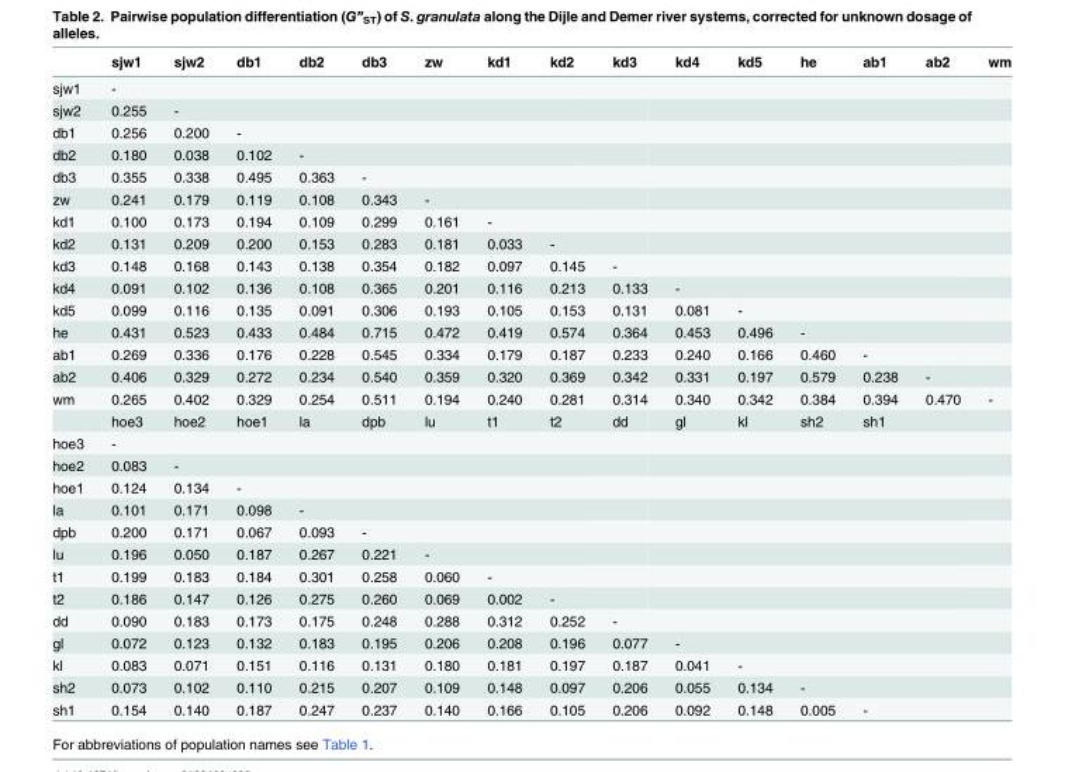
<table><thead><tr><td></td><td>sjw1</td><td>sjw2</td><td>db1</td><td>db2</td><td>db3</td><td>zw</td><td>kd1</td><td>kd2</td><td>kd3</td><td>kd4</td><td>kd5</td><td>he</td><td>ab1</td><td>ab2</td><td>wm</td></tr></thead><tbody><tr><td>sjw1</td><td>-</td><td></td><td></td><td></td><td></td><td></td><td></td><td></td><td></td><td></td><td></td><td></td><td></td><td></td><td></td></tr><tr><td>sjw2</td><td>0.255</td><td>-</td><td></td><td></td><td></td><td></td><td></td><td></td><td></td><td></td><td></td><td></td><td></td><td></td><td></td></tr><tr><td>db1</td><td>0.256</td><td>0.200</td><td>-</td><td></td><td></td><td></td><td></td><td></td><td></td><td></td><td></td><td></td><td></td><td></td><td></td></tr><tr><td>db2</td><td>0.180</td><td>0.038</td><td>0.102</td><td>-</td><td></td><td></td><td></td><td></td><td></td><td></td><td></td><td></td><td></td><td></td><td></td></tr><tr><td>db3</td><td>0.355</td><td>0.338</td><td>0.495</td><td>0.363</td><td>-</td><td></td><td></td><td></td><td></td><td></td><td></td><td></td><td></td><td></td><td></td></tr><tr><td>zw</td><td>0.241</td><td>0.179</td><td>0.119</td><td>0.108</td><td>0.343</td><td>-</td><td></td><td></td><td></td><td></td><td></td><td></td><td></td><td></td><td></td></tr><tr><td>kd1</td><td>0.100</td><td>0.173</td><td>0.194</td><td>0.109</td><td>0.299</td><td>0.161</td><td>-</td><td></td><td></td><td></td><td></td><td></td><td></td><td></td><td></td></tr><tr><td>kd2</td><td>0.131</td><td>0.209</td><td>0.200</td><td>0.153</td><td>0.283</td><td>0.181</td><td>0.033</td><td>-</td><td></td><td></td><td></td><td></td><td></td><td></td><td></td></tr><tr><td>kd3</td><td>0.148</td><td>0.168</td><td>0.143</td><td>0.138</td><td>0.354</td><td>0.182</td><td>0.097</td><td>0.145</td><td>-</td><td></td><td></td><td></td><td></td><td></td><td></td></tr><tr><td>kd4</td><td>0.091</td><td>0.102</td><td>0.136</td><td>0.108</td><td>0.365</td><td>0.201</td><td>0.116</td><td>0.213</td><td>0.133</td><td>-</td><td></td><td></td><td></td><td></td><td></td></tr><tr><td>kd5</td><td>0.099</td><td>0.116</td><td>0.135</td><td>0.091</td><td>0.306</td><td>0.193</td><td>0.105</td><td>0.153</td><td>0.131</td><td>0.081</td><td>-</td><td></td><td></td><td></td><td></td></tr><tr><td>he</td><td>0.431</td><td>0.523</td><td>0.433</td><td>0.484</td><td>0.715</td><td>0.472</td><td>0.419</td><td>0.574</td><td>0.364</td><td>0.453</td><td>0.496</td><td>-</td><td></td><td></td><td></td></tr><tr><td>ab1</td><td>0.269</td><td>0.336</td><td>0.176</td><td>0.228</td><td>0.545</td><td>0.334</td><td>0.179</td><td>0.187</td><td>0.233</td><td>0.240</td><td>0.166</td><td>0.460</td><td>-</td><td></td><td></td></tr><tr><td>ab2</td><td>0.406</td><td>0.329</td><td>0.272</td><td>0.234</td><td>0.540</td><td>0.359</td><td>0.320</td><td>0.369</td><td>0.342</td><td>0.331</td><td>0.197</td><td>0.579</td><td>0.238</td><td>-</td><td></td></tr><tr><td rowspan="2">wm</td><td>0.265</td><td>0.402</td><td>0.329</td><td>0.254</td><td>0.511</td><td>0.194</td><td>0.240</td><td>0.281</td><td>0.314</td><td>0.340</td><td>0.342</td><td>0.384</td><td>0.394</td><td>0.470</td><td>-</td></tr><tr><td>hoe3</td><td>hoe2</td><td>hoe1</td><td>la</td><td>dpb</td><td>lu</td><td>t1</td><td>t2</td><td>dd</td><td>gl</td><td>kl</td><td>sh2</td><td>sh1</td><td></td><td></td></tr><tr><td>hoe3</td><td>-</td><td></td><td></td><td></td><td></td><td></td><td></td><td></td><td></td><td></td><td></td><td></td><td></td><td></td><td></td></tr><tr><td>hoe2</td><td>0.083</td><td>-</td><td></td><td></td><td></td><td></td><td></td><td></td><td></td><td></td><td></td><td></td><td></td><td></td><td></td></tr><tr><td>hoe1</td><td>0.124</td><td>0.134</td><td>-</td><td></td><td></td><td></td><td></td><td></td><td></td><td></td><td></td><td></td><td></td><td></td><td></td></tr><tr><td>la</td><td>0.101</td><td>0.171</td><td>0.098</td><td>-</td><td></td><td></td><td></td><td></td><td></td><td></td><td></td><td></td><td></td><td></td><td></td></tr><tr><td>dpb</td><td>0.200</td><td>0.171</td><td>0.067</td><td>0.093</td><td>-</td><td></td><td></td><td></td><td></td><td></td><td></td><td></td><td></td><td></td><td></td></tr><tr><td>lu</td><td>0.196</td><td>0.050</td><td>0.187</td><td>0.267</td><td>0.221</td><td>-</td><td></td><td></td><td></td><td></td><td></td><td></td><td></td><td></td><td></td></tr><tr><td>t1</td><td>0.199</td><td>0.183</td><td>0.184</td><td>0.301</td><td>0.258</td><td>0.060</td><td>-</td><td></td><td></td><td></td><td></td><td></td><td></td><td></td><td></td></tr><tr><td>t2</td><td>0.186</td><td>0.147</td><td>0.126</td><td>0.275</td><td>0.260</td><td>0.069</td><td>0.002</td><td>-</td><td></td><td></td><td></td><td></td><td></td><td></td><td></td></tr><tr><td>dd</td><td>0.090</td><td>0.183</td><td>0.173</td><td>0.175</td><td>0.248</td><td>0.288</td><td>0.312</td><td>0.252</td><td>-</td><td></td><td></td><td></td><td></td><td></td><td></td></tr><tr><td>gl</td><td>0.072</td><td>0.123</td><td>0.132</td><td>0.183</td><td>0.195</td><td>0.206</td><td>0.208</td><td>0.196</td><td>0.077</td><td>-</td><td></td><td></td><td></td><td></td><td></td></tr><tr><td>kl</td><td>0.083</td><td>0.071</td><td>0.151</td><td>0.116</td><td>0.131</td><td>0.180</td><td>0.181</td><td>0.197</td><td>0.187</td><td>0.041</td><td>-</td><td></td><td></td><td></td><td></td></tr><tr><td>sh2</td><td>0.073</td><td>0.102</td><td>0.110</td><td>0.215</td><td>0.207</td><td>0.109</td><td>0.148</td><td>0.097</td><td>0.206</td><td>0.055</td><td>0.134</td><td>-</td><td></td><td></td><td></td></tr><tr><td>sh1</td><td>0.154</td><td>0.140</td><td>0.187</td><td>0.247</td><td>0.237</td><td>0.140</td><td>0.166</td><td>0.105</td><td>0.206</td><td>0.092</td><td>0.148</td><td>0.005</td><td>-</td><td></td><td></td></tr></tbody></table>